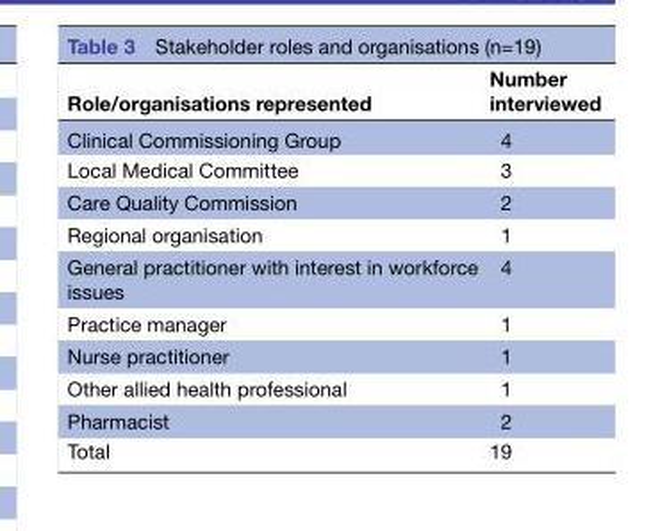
<table><thead><tr><td>Role/organisations represented</td><td>Number interviewed</td></tr></thead><tbody><tr><td>Clinical Commissioning Group</td><td>4</td></tr><tr><td>Local Medical Committee</td><td>3</td></tr><tr><td>Care Quality Commission</td><td>2</td></tr><tr><td>Regional organisation</td><td>1</td></tr><tr><td>General practitioner with interest in workforce issues</td><td>4</td></tr><tr><td>Practice manager</td><td>1</td></tr><tr><td>Nurse practitioner</td><td>1</td></tr><tr><td>Other allied health professional</td><td>1</td></tr><tr><td>Pharmacist</td><td>2</td></tr><tr><td>Total</td><td>19</td></tr></tbody></table>